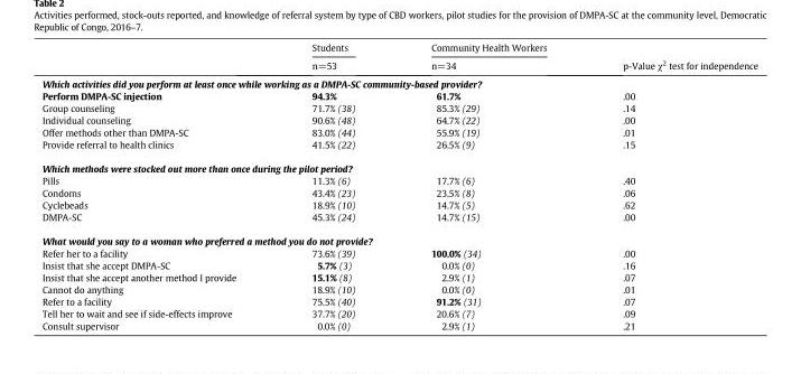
<table><thead><tr><td rowspan="2"></td><td rowspan="2">Students n=53</td><td rowspan="2">Community Health Workers n=34</td><td rowspan="2">p-Value χ<sup>2</sup> test for independence</td></tr><tr></tr></thead><tbody><tr><td colspan="4">Which activities did you perform at least once while working as a DMPA-SC community-based provider?</td></tr><tr><td>Perform DMPA-SC injection</td><td>94.3%</td><td>61.7%</td><td>.00</td></tr><tr><td>Group counseling</td><td>71.7% (38)</td><td>85.3% (29)</td><td>.14</td></tr><tr><td>Individual counseling</td><td>90.6% (48)</td><td>64.7% (22)</td><td>.00</td></tr><tr><td>Offer methods other than DMPA-SC</td><td>83.0% (44)</td><td>55.9% (19)</td><td>.01</td></tr><tr><td>Provide referral to health clinics</td><td>41.5% (22)</td><td>26.5% (9)</td><td>.15</td></tr><tr><td colspan="4">Which methods were stocked out more than once during the pilot period?</td></tr><tr><td>Pills</td><td>11.3% (6)</td><td>17.7% (6)</td><td>.40</td></tr><tr><td>Condoms</td><td>43.4% (23)</td><td>23.5% (8)</td><td>.06</td></tr><tr><td>Cyclebeads</td><td>18.9% (10)</td><td>14.7% (5)</td><td>.62</td></tr><tr><td>DMPA-SC</td><td>45.3% (24)</td><td>14.7% (15)</td><td>.00</td></tr><tr><td colspan="4">What would you say to a woman who preferred a method you do not provide?</td></tr><tr><td>Refer her to a facility</td><td>73.6% (39)</td><td>100.0% (34)</td><td>.00</td></tr><tr><td>Insist that she accept DMPA-SC</td><td>5.7% (3)</td><td>0.0% (0)</td><td>.16</td></tr><tr><td>Insist that she accept another method I provide</td><td>15.1% (8)</td><td>2.9% (1)</td><td>.07</td></tr><tr><td>Cannot do anything</td><td>18.9% (10)</td><td>0.0% (0)</td><td>.01</td></tr><tr><td>Refer to a facility</td><td>75.5% (40)</td><td>91.2% (31)</td><td>.07</td></tr><tr><td>Tell her to wait and see if side-effects improve</td><td>37.7% (20)</td><td>20.6% (7)</td><td>.09</td></tr><tr><td>Consult supervisor</td><td>0.0% (0)</td><td>2.9% (1)</td><td>.21</td></tr></tbody></table>